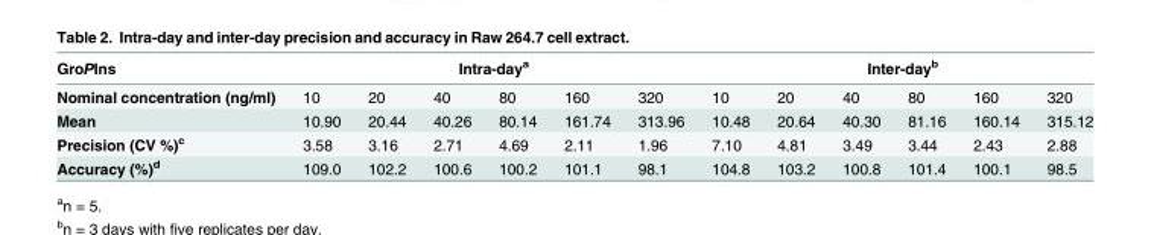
<table><thead><tr><td rowspan="2">GroPIns Nominal concentration (ng/ml)</td><td colspan="6">Intra-day<sup>a</sup></td><td colspan="6">Inter-day<sup>b</sup></td></tr><tr><td>10</td><td>20</td><td>40</td><td>80</td><td>160</td><td>320</td><td>10</td><td>20</td><td>40</td><td>80</td><td>160</td><td>320</td></tr></thead><tbody><tr><td>Mean</td><td>10.90</td><td>20.44</td><td>40.26</td><td>80.14</td><td>161.74</td><td>313.96</td><td>10.48</td><td>20.64</td><td>40.30</td><td>81.16</td><td>160.14</td><td>315.12</td></tr><tr><td>Precision (CV %)<sup>c</sup></td><td>3.58</td><td>3.16</td><td>2.71</td><td>4.69</td><td>2.11</td><td>1.96</td><td>7.10</td><td>4.81</td><td>3.49</td><td>3.44</td><td>2.43</td><td>2.88</td></tr><tr><td>Accuracy (%)<sup>d</sup></td><td>109.0</td><td>102.2</td><td>100.6</td><td>100.2</td><td>101.1</td><td>98.1</td><td>104.8</td><td>103.2</td><td>100.8</td><td>101.4</td><td>100.1</td><td>98.5</td></tr></tbody></table>